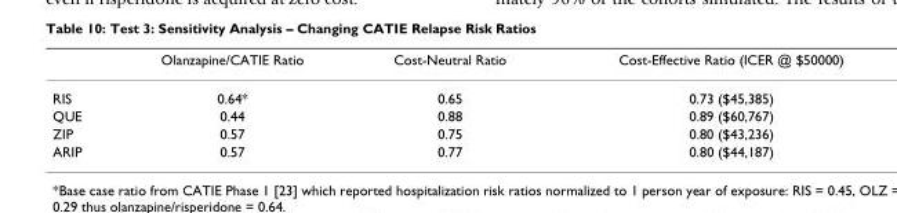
<table><thead><tr><td></td><td>Olanzapine/CATIE Ratio</td><td>Cost-Neutral Ratio</td><td>Cost-Effective Ratio (ICER @ $50000)</td></tr></thead><tbody><tr><td>RIS</td><td>0.64*</td><td>0.65</td><td>0.73 ($45,385)</td></tr><tr><td>QUE</td><td>0.44</td><td>0.88</td><td>0.89 ($60,767)</td></tr><tr><td>ZIP</td><td>0.57</td><td>0.75</td><td>0.80 ($43,236)</td></tr><tr><td>ARIP</td><td>0.57</td><td>0.77</td><td>0.80 ($44,187)</td></tr></tbody></table>